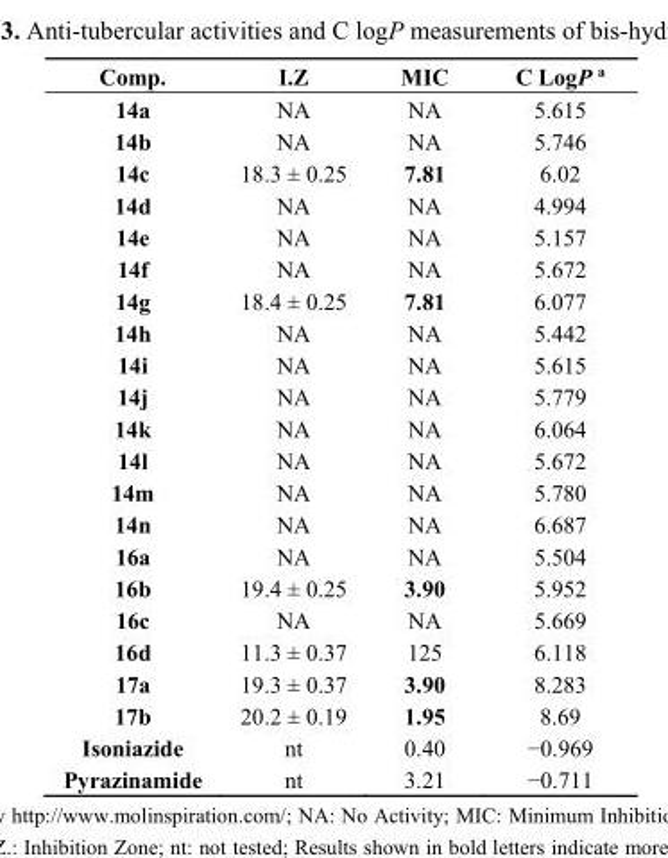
<table><thead><tr><td>Comp.</td><td>I.Z</td><td>MIC</td><td>C LogP <sup>a</sup></td></tr></thead><tbody><tr><td>14a</td><td>NA</td><td>NA</td><td>5.615</td></tr><tr><td>14b</td><td>NA</td><td>NA</td><td>5.746</td></tr><tr><td>14c</td><td>18.3 ± 0.25</td><td>7.81</td><td>6.02</td></tr><tr><td>14d</td><td>NA</td><td>NA</td><td>4.994</td></tr><tr><td>14e</td><td>NA</td><td>NA</td><td>5.157</td></tr><tr><td>14f</td><td>NA</td><td>NA</td><td>5.672</td></tr><tr><td>14g</td><td>18.4 ± 0.25</td><td>7.81</td><td>6.077</td></tr><tr><td>14h</td><td>NA</td><td>NA</td><td>5.442</td></tr><tr><td>14i</td><td>NA</td><td>NA</td><td>5.615</td></tr><tr><td>14j</td><td>NA</td><td>NA</td><td>5.779</td></tr><tr><td>14k</td><td>NA</td><td>NA</td><td>6.064</td></tr><tr><td>14l</td><td>NA</td><td>NA</td><td>5.672</td></tr><tr><td>14m</td><td>NA</td><td>NA</td><td>5.780</td></tr><tr><td>14n</td><td>NA</td><td>NA</td><td>6.687</td></tr><tr><td>16a</td><td>NA</td><td>NA</td><td>5.504</td></tr><tr><td>16b</td><td>19.4 ± 0.25</td><td>3.90</td><td>5.952</td></tr><tr><td>16c</td><td>NA</td><td>NA</td><td>5.669</td></tr><tr><td>16d</td><td>11.3 ± 0.37</td><td>125</td><td>6.118</td></tr><tr><td>17a</td><td>19.3 ± 0.37</td><td>3.90</td><td>8.283</td></tr><tr><td>17b</td><td>20.2 ± 0.19</td><td>1.95</td><td>8.69</td></tr><tr><td>Isoniazide</td><td>nt</td><td>0.40</td><td>−0.969</td></tr><tr><td>Pyrazinamide</td><td>nt</td><td>3.21</td><td>−0.711</td></tr></tbody></table>